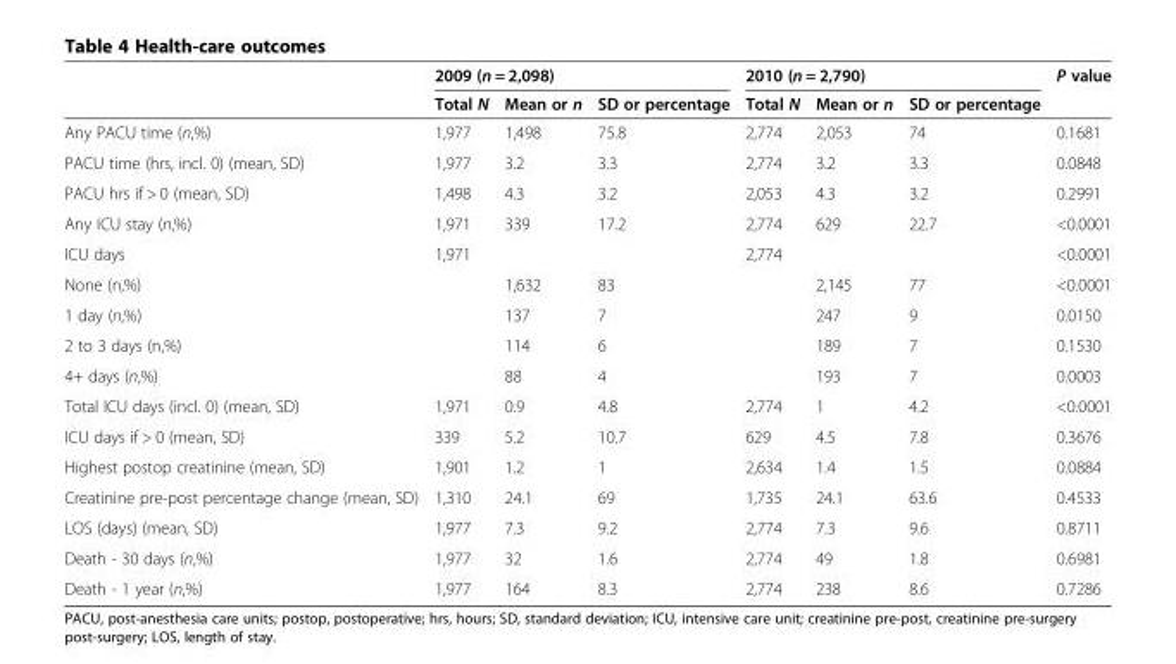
<table><thead><tr><td rowspan="2"></td><td colspan="3">2009 (n = 2,098)</td><td colspan="3">2010 (n = 2,790)</td><td rowspan="2">P value</td></tr><tr><td>Total N</td><td>Mean or n</td><td>SD or percentage</td><td>Total N</td><td>Mean or n</td><td>SD or percentage</td></tr></thead><tbody><tr><td>Any PACU time (n,%)</td><td>1,977</td><td>1,498</td><td>75.8</td><td>2,774</td><td>2,053</td><td>74</td><td>0.1681</td></tr><tr><td>PACU time (hrs, incl. 0) (mean, SD)</td><td>1,977</td><td>3.2</td><td>3.3</td><td>2,774</td><td>3.2</td><td>3.3</td><td>0.0848</td></tr><tr><td>PACU hrs if &gt; 0 (mean, SD)</td><td>1,498</td><td>4.3</td><td>3.2</td><td>2,053</td><td>4.3</td><td>3.2</td><td>0.2991</td></tr><tr><td>Any ICU stay (n,%)</td><td>1,971</td><td>339</td><td>17.2</td><td>2,774</td><td>629</td><td>22.7</td><td>&lt;0.0001</td></tr><tr><td>ICU days</td><td>1,971</td><td></td><td></td><td>2,774</td><td></td><td></td><td>&lt;0.0001</td></tr><tr><td>None (n,%)</td><td></td><td>1,632</td><td>83</td><td></td><td>2,145</td><td>77</td><td>&lt;0.0001</td></tr><tr><td>1 day (n,%)</td><td></td><td>137</td><td>7</td><td></td><td>247</td><td>9</td><td>0.0150</td></tr><tr><td>2 to 3 days (n,%)</td><td></td><td>114</td><td>6</td><td></td><td>189</td><td>7</td><td>0.1530</td></tr><tr><td>4+ days (n,%)</td><td></td><td>88</td><td>4</td><td></td><td>193</td><td>7</td><td>0.0003</td></tr><tr><td>Total ICU days (incl. 0) (mean, SD)</td><td>1,971</td><td>0.9</td><td>4.8</td><td>2,774</td><td>1</td><td>4.2</td><td>&lt;0.0001</td></tr><tr><td>ICU days if &gt; 0 (mean, SD)</td><td>339</td><td>5.2</td><td>10.7</td><td>629</td><td>4.5</td><td>7.8</td><td>0.3676</td></tr><tr><td>Highest postop creatinine (mean, SD)</td><td>1,901</td><td>1.2</td><td>1</td><td>2,634</td><td>1.4</td><td>1.5</td><td>0.0884</td></tr><tr><td>Creatinine pre-post percentage change (mean, SD)</td><td>1,310</td><td>24.1</td><td>69</td><td>1,735</td><td>24.1</td><td>63.6</td><td>0.4533</td></tr><tr><td>LOS (days) (mean, SD)</td><td>1,977</td><td>7.3</td><td>9.2</td><td>2,774</td><td>7.3</td><td>9.6</td><td>0.8711</td></tr><tr><td>Death - 30 days (n,%)</td><td>1,977</td><td>32</td><td>1.6</td><td>2,774</td><td>49</td><td>1.8</td><td>0.6981</td></tr><tr><td>Death - 1 year (n,%)</td><td>1,977</td><td>164</td><td>8.3</td><td>2,774</td><td>238</td><td>8.6</td><td>0.7286</td></tr></tbody></table>